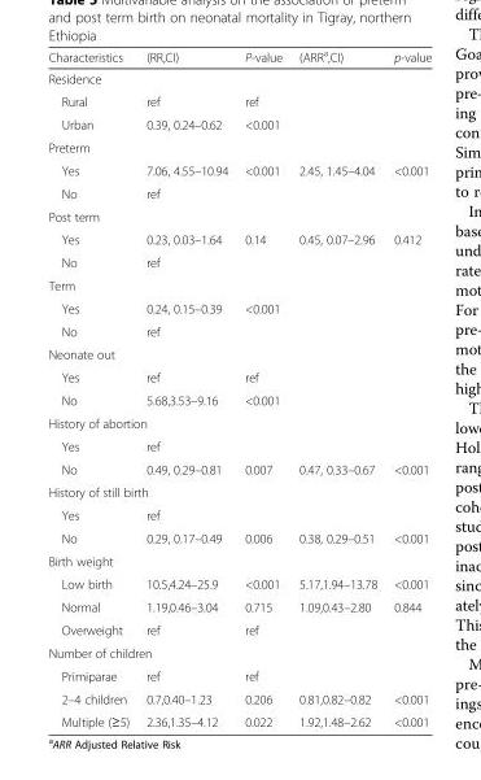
<table><thead><tr><td>Characteristics</td><td>(RR,CI)</td><td>P-value</td><td>(ARR<sup>a</sup>,CI)</td><td>p-value</td></tr></thead><tbody><tr><td colspan="5">Residence</td></tr><tr><td>Rural</td><td>ref</td><td>ref</td><td></td><td></td></tr><tr><td>Urban</td><td>0.39, 0.24–0.62</td><td>&lt;0.001</td><td></td><td></td></tr><tr><td colspan="5">Preterm</td></tr><tr><td>Yes</td><td>7.06, 4.55–10.94</td><td>&lt;0.001</td><td>2.45, 1.45–4.04</td><td>&lt;0.001</td></tr><tr><td>No</td><td>ref</td><td></td><td></td><td></td></tr><tr><td colspan="5">Post term</td></tr><tr><td>Yes</td><td>0.23, 0.03–1.64</td><td>0.14</td><td>0.45, 0.07–2.96</td><td>0.412</td></tr><tr><td>No</td><td>ref</td><td></td><td></td><td></td></tr><tr><td colspan="5">Term</td></tr><tr><td>Yes</td><td>0.24, 0.15–0.39</td><td>&lt;0.001</td><td></td><td></td></tr><tr><td>No</td><td>ref</td><td></td><td></td><td></td></tr><tr><td colspan="5">Neonate out</td></tr><tr><td>Yes</td><td>ref</td><td>ref</td><td></td><td></td></tr><tr><td>No</td><td>5.68,3.53–9.16</td><td>&lt;0.001</td><td></td><td></td></tr><tr><td colspan="5">History of abortion</td></tr><tr><td>Yes</td><td>ref</td><td></td><td></td><td></td></tr><tr><td>No</td><td>0.49, 0.29–0.81</td><td>0.007</td><td>0.47, 0.33–0.67</td><td>&lt;0.001</td></tr><tr><td colspan="5">History of still birth</td></tr><tr><td>Yes</td><td>ref</td><td></td><td></td><td></td></tr><tr><td>No</td><td>0.29, 0.17–0.49</td><td>0.006</td><td>0.38, 0.29–0.51</td><td>&lt;0.001</td></tr><tr><td colspan="5">Birth weight</td></tr><tr><td>Low birth</td><td>10.5,4.24–25.9</td><td>&lt;0.001</td><td>5.17,1.94–13.78</td><td>&lt;0.001</td></tr><tr><td>Normal</td><td>1.19,0.46–3.04</td><td>0.715</td><td>1.09,0.43–2.80</td><td>0.844</td></tr><tr><td>Overweight</td><td>ref</td><td>ref</td><td></td><td></td></tr><tr><td colspan="5">Number of children</td></tr><tr><td>Primiparae</td><td>ref</td><td>ref</td><td></td><td></td></tr><tr><td>2–4 children</td><td>0.7,0.40–1.23</td><td>0.206</td><td>0.81,0.82–0.82</td><td>&lt;0.001</td></tr><tr><td>Multiple (≥5)</td><td>2.36,1.35–4.12</td><td>0.022</td><td>1.92,1.48–2.62</td><td>&lt;0.001</td></tr></tbody></table>